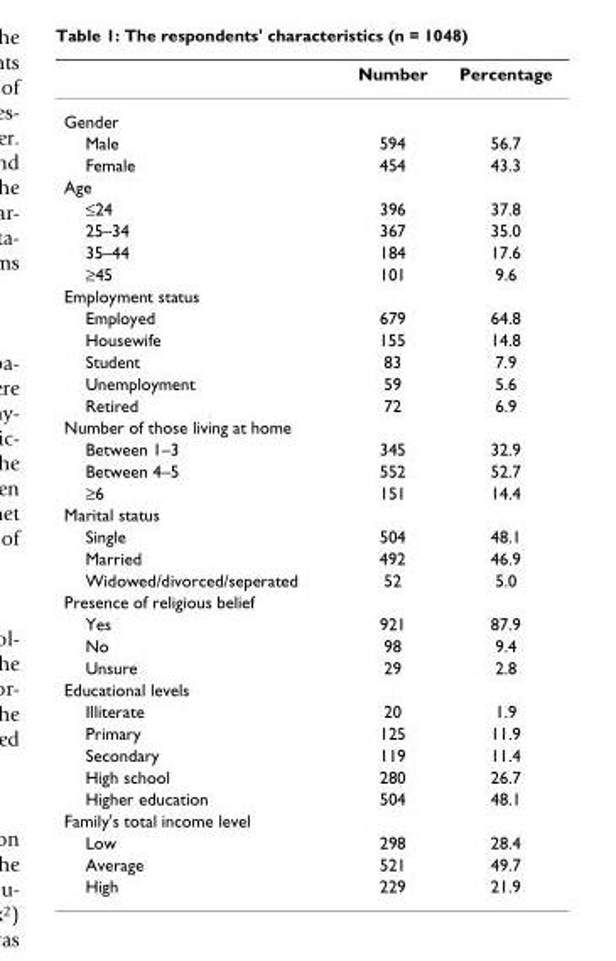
<table><thead><tr><td></td><td>Number</td><td>Percentage</td></tr></thead><tbody><tr><td colspan="3">Gender</td></tr><tr><td>Male</td><td>594</td><td>56.7</td></tr><tr><td>Female</td><td>454</td><td>43.3</td></tr><tr><td colspan="3">Age</td></tr><tr><td>≤24</td><td>396</td><td>37.8</td></tr><tr><td>25–34</td><td>367</td><td>35.0</td></tr><tr><td>35–44</td><td>184</td><td>17.6</td></tr><tr><td>≥45</td><td>101</td><td>9.6</td></tr><tr><td colspan="3">Employment status</td></tr><tr><td>Employed</td><td>679</td><td>64.8</td></tr><tr><td>Housewife</td><td>155</td><td>14.8</td></tr><tr><td>Student</td><td>83</td><td>7.9</td></tr><tr><td>Unemployment</td><td>59</td><td>5.6</td></tr><tr><td>Retired</td><td>72</td><td>6.9</td></tr><tr><td colspan="3">Number of those living at home</td></tr><tr><td>Between 1–3</td><td>345</td><td>32.9</td></tr><tr><td>Between 4–5</td><td>552</td><td>52.7</td></tr><tr><td>≥6</td><td>151</td><td>14.4</td></tr><tr><td colspan="3">Marital status</td></tr><tr><td>Single</td><td>504</td><td>48.1</td></tr><tr><td>Married</td><td>492</td><td>46.9</td></tr><tr><td>Widowed/divorced/seperated</td><td>52</td><td>5.0</td></tr><tr><td colspan="3">Presence of religious belief</td></tr><tr><td>Yes</td><td>921</td><td>87.9</td></tr><tr><td>No</td><td>98</td><td>9.4</td></tr><tr><td>Unsure</td><td>29</td><td>2.8</td></tr><tr><td colspan="3">Educational levels</td></tr><tr><td>Illiterate</td><td>20</td><td>1.9</td></tr><tr><td>Primary</td><td>125</td><td>11.9</td></tr><tr><td>Secondary</td><td>119</td><td>11.4</td></tr><tr><td>High school</td><td>280</td><td>26.7</td></tr><tr><td>Higher education</td><td>504</td><td>48.1</td></tr><tr><td colspan="3">Family&#x27;s total income level</td></tr><tr><td>Low</td><td>298</td><td>28.4</td></tr><tr><td>Average</td><td>521</td><td>49.7</td></tr><tr><td>High</td><td>229</td><td>21.9</td></tr></tbody></table>